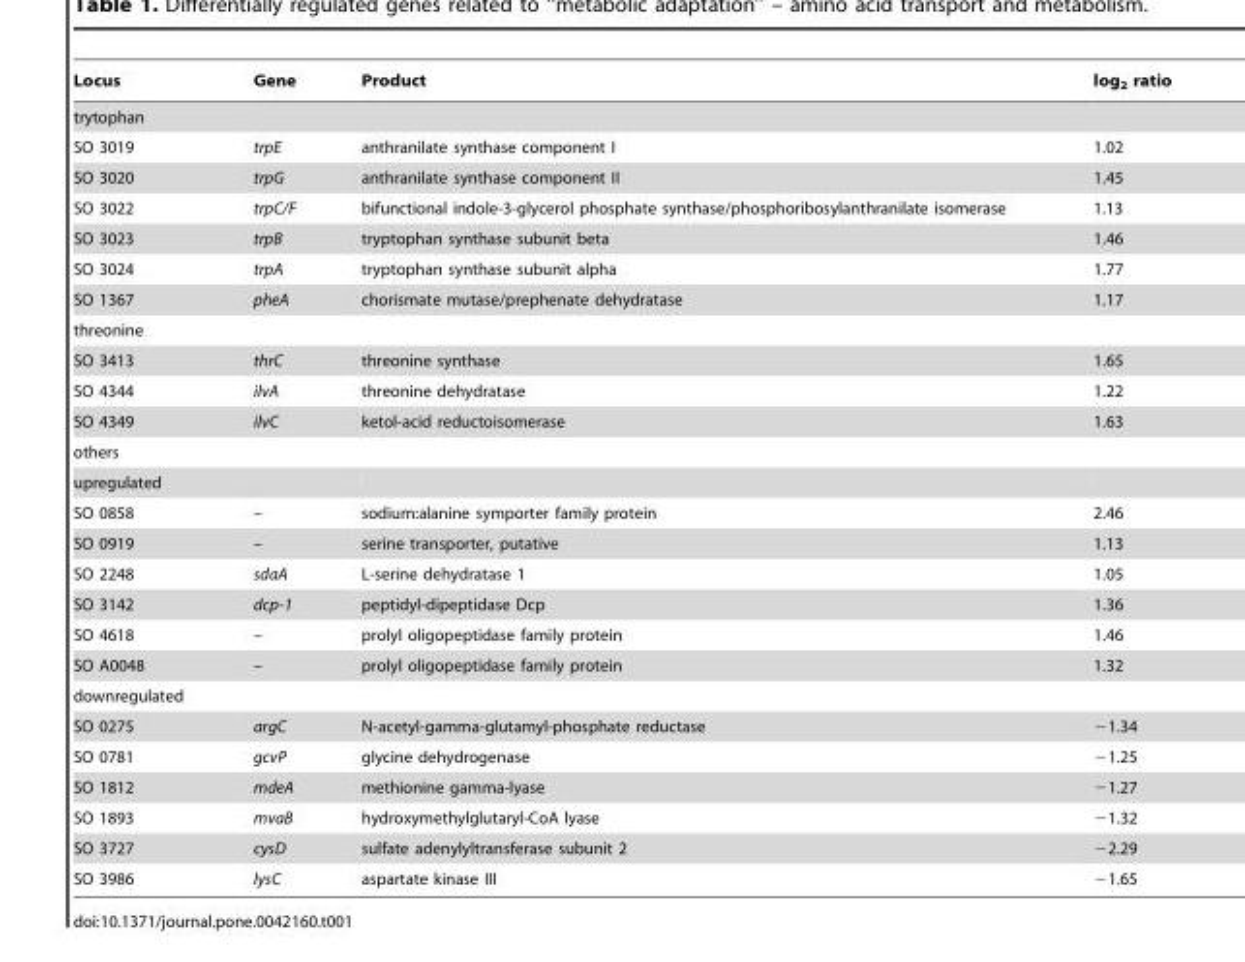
<table><thead><tr><td>Locus</td><td>Gene</td><td>Product</td><td>log<sub>2</sub> ratio</td></tr></thead><tbody><tr><td colspan="4">trytophan</td></tr><tr><td>SO 3019</td><td>trpE</td><td>anthranilate synthase component I</td><td>1.02</td></tr><tr><td>SO 3020</td><td>trpG</td><td>anthranilate synthase component II</td><td>1.45</td></tr><tr><td>SO 3022</td><td>trpC/F</td><td>bifunctional indole-3-glycerol phosphate synthase/phosphoribosylanthranilate isomerase</td><td>1.13</td></tr><tr><td>SO 3023</td><td>trpB</td><td>tryptophan synthase subunit beta</td><td>1.46</td></tr><tr><td>SO 3024</td><td>trpA</td><td>tryptophan synthase subunit alpha</td><td>1.77</td></tr><tr><td>SO 1367</td><td>pheA</td><td>chorismate mutase/prephenate dehydratase</td><td>1.17</td></tr><tr><td colspan="4">threonine</td></tr><tr><td>SO 3413</td><td>thrC</td><td>threonine synthase</td><td>1.65</td></tr><tr><td>SO 4344</td><td>ilvA</td><td>threonine dehydratase</td><td>1.22</td></tr><tr><td>SO 4349</td><td>ilvC</td><td>ketol-acid reductoisomerase</td><td>1.63</td></tr><tr><td colspan="4">others</td></tr><tr><td colspan="4">upregulated</td></tr><tr><td>SO 0858</td><td>–</td><td>sodium:alanine symporter family protein</td><td>2.46</td></tr><tr><td>SO 0919</td><td>–</td><td>serine transporter, putative</td><td>1.13</td></tr><tr><td>SO 2248</td><td>sdaA</td><td>L-serine dehydratase 1</td><td>1.05</td></tr><tr><td>SO 3142</td><td>dcp-1</td><td>peptidyl-dipeptidase Dcp</td><td>1.36</td></tr><tr><td>SO 4618</td><td>–</td><td>prolyl oligopeptidase family protein</td><td>1.46</td></tr><tr><td>SO A0048</td><td>–</td><td>prolyl oligopeptidase family protein</td><td>1.32</td></tr><tr><td colspan="4">downregulated</td></tr><tr><td>SO 0275</td><td>argC</td><td>N-acetyl-gamma-glutamyl-phosphate reductase</td><td>−1.34</td></tr><tr><td>SO 0781</td><td>gcvP</td><td>glycine dehydrogenase</td><td>−1.25</td></tr><tr><td>SO 1812</td><td>mdeA</td><td>methionine gamma-lyase</td><td>−1.27</td></tr><tr><td>SO 1893</td><td>mvaB</td><td>hydroxymethylglutaryl-CoA lyase</td><td>−1.32</td></tr><tr><td>SO 3727</td><td>cysD</td><td>sulfate adenylyltransferase subunit 2</td><td>−2.29</td></tr><tr><td>SO 3986</td><td>lysC</td><td>aspartate kinase III</td><td>−1.65</td></tr></tbody></table>